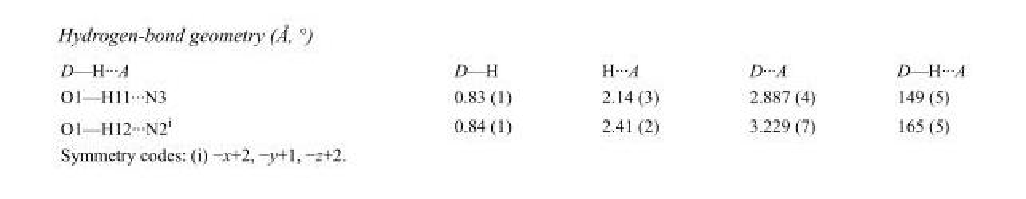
<table><tbody><tr><td>D—H···A</td><td>D—H</td><td>H···A</td><td>D···A</td><td>D—H···A</td></tr><tr><td>O1—H11···N3</td><td>0.83 (1)</td><td>2.14 (3)</td><td>2.887 (4)</td><td>149 (5)</td></tr><tr><td>O1—H12···N2<sup>i</sup></td><td>0.84 (1)</td><td>2.41 (2)</td><td>3.229 (7)</td><td>165 (5)</td></tr></tbody></table>